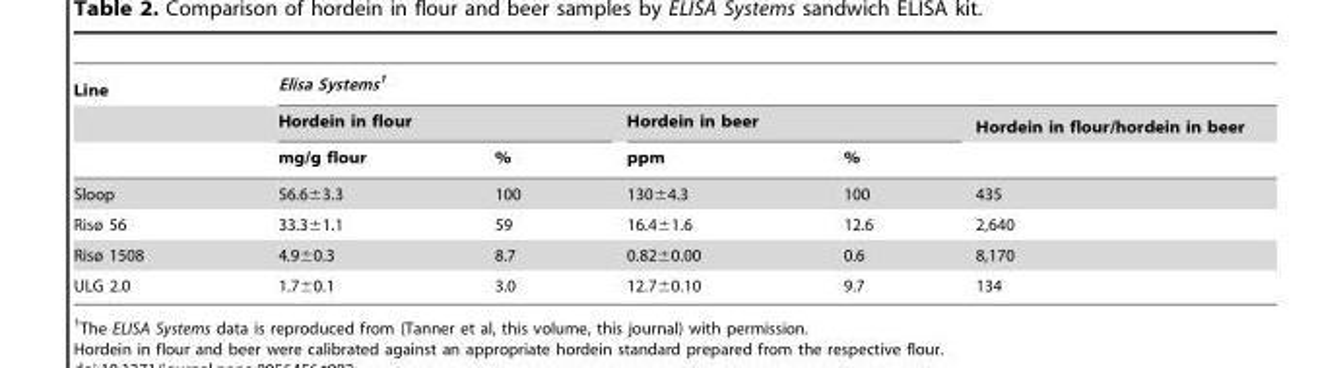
<table><thead><tr><td rowspan="3">Line</td><td colspan="5">Elisa Systems1</td></tr><tr><td colspan="2">Hordein in flour</td><td colspan="2">Hordein in beer</td><td rowspan="2">Hordein in flour/hordein in beer</td></tr><tr><td>mg/g flour</td><td>%</td><td>ppm</td><td>%</td></tr></thead><tbody><tr><td>Sloop</td><td>56.6±3.3</td><td>100</td><td>130±4.3</td><td>100</td><td>435</td></tr><tr><td>Risø 56</td><td>33.3±1.1</td><td>59</td><td>16.4±1.6</td><td>12.6</td><td>2,640</td></tr><tr><td>Risø 1508</td><td>4.9±0.3</td><td>8.7</td><td>0.82±0.00</td><td>0.6</td><td>8,170</td></tr><tr><td>ULG 2.0</td><td>1.7±0.1</td><td>3.0</td><td>12.7±0.10</td><td>9.7</td><td>134</td></tr></tbody></table>